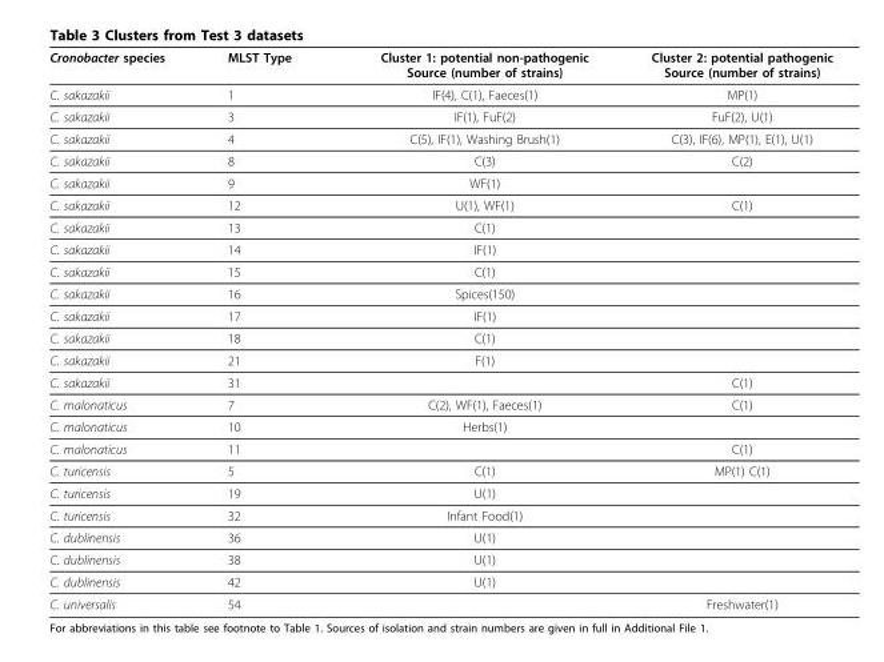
<table><thead><tr><td>Cronobacter species</td><td>MLST Type</td><td>Cluster 1: potential non-pathogenic Source (number of strains)</td><td>Cluster 2: potential pathogenic Source (number of strains)</td></tr></thead><tbody><tr><td>C. sakazakii</td><td>1</td><td>IF(4), C(1), Faeces(1)</td><td>MP(1)</td></tr><tr><td>C. sakazakii</td><td>3</td><td>IF(1), FuF(2)</td><td>FuF(2), U(1)</td></tr><tr><td>C. sakazakii</td><td>4</td><td>C(5), IF(1), Washing Brush(1)</td><td>C(3), IF(6), MP(1), E(1), U(1)</td></tr><tr><td>C. sakazakii</td><td>8</td><td>C(3)</td><td>C(2)</td></tr><tr><td>C. sakazakii</td><td>9</td><td>WF(1)</td><td></td></tr><tr><td>C. sakazakii</td><td>12</td><td>U(1), WF(1)</td><td>C(1)</td></tr><tr><td>C. sakazakii</td><td>13</td><td>C(1)</td><td></td></tr><tr><td>C. sakazakii</td><td>14</td><td>IF(1)</td><td></td></tr><tr><td>C. sakazakii</td><td>15</td><td>C(1)</td><td></td></tr><tr><td>C. sakazakii</td><td>16</td><td>Spices(150)</td><td></td></tr><tr><td>C. sakazakii</td><td>17</td><td>IF(1)</td><td></td></tr><tr><td>C. sakazakii</td><td>18</td><td>C(1)</td><td></td></tr><tr><td>C. sakazakii</td><td>21</td><td>F(1)</td><td></td></tr><tr><td>C. sakazakii</td><td>31</td><td></td><td>C(1)</td></tr><tr><td>C. malonaticus</td><td>7</td><td>C(2), WF(1), Faeces(1)</td><td>C(1)</td></tr><tr><td>C. malonaticus</td><td>10</td><td>Herbs(1)</td><td></td></tr><tr><td>C. malonaticus</td><td>11</td><td></td><td>C(1)</td></tr><tr><td>C. turicensis</td><td>5</td><td>C(1)</td><td>MP(1) C(1)</td></tr><tr><td>C. turicensis</td><td>19</td><td>U(1)</td><td></td></tr><tr><td>C. turicensis</td><td>32</td><td>Infant Food(1)</td><td></td></tr><tr><td>C. dublinensis</td><td>36</td><td>U(1)</td><td></td></tr><tr><td>C. dublinensis</td><td>38</td><td>U(1)</td><td></td></tr><tr><td>C. dublinensis</td><td>42</td><td>U(1)</td><td></td></tr><tr><td>C. universalis</td><td>54</td><td></td><td>Freshwater(1)</td></tr></tbody></table>